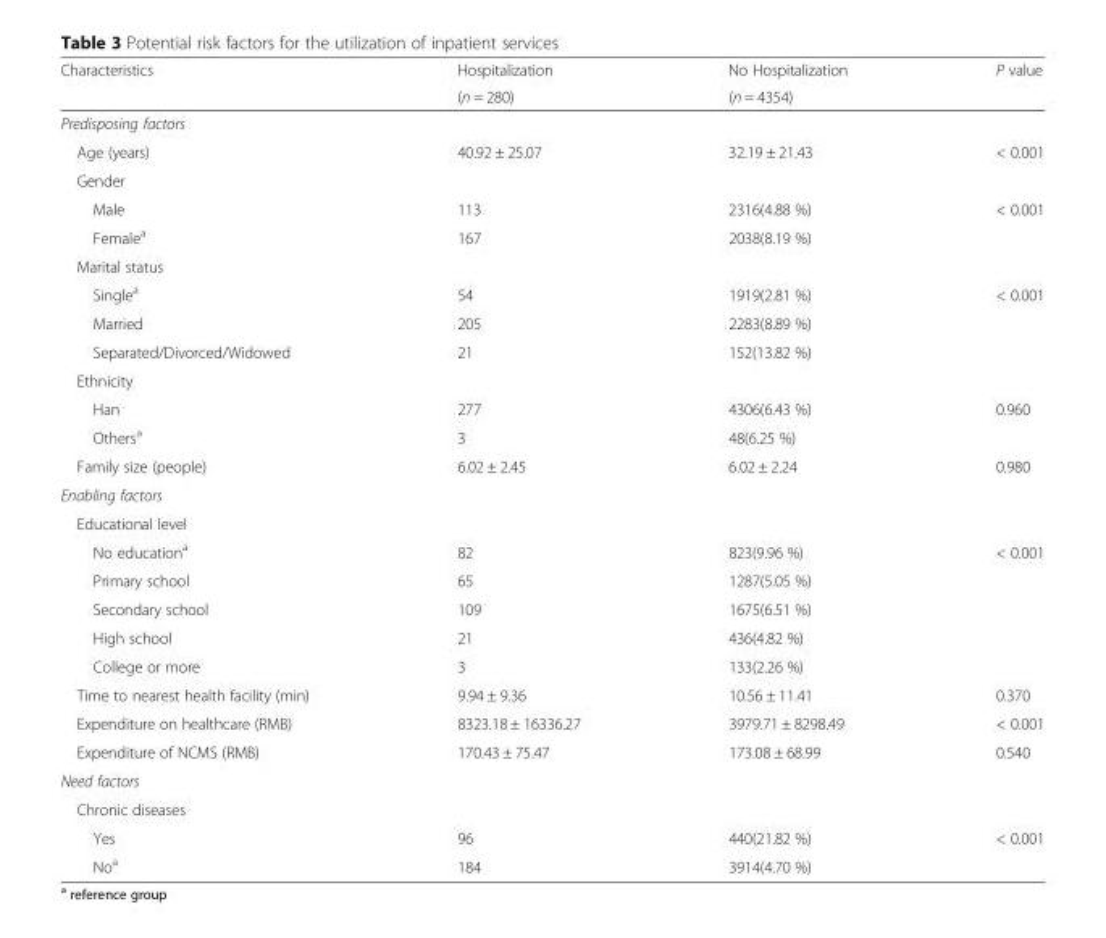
<table><thead><tr><td rowspan="2">Characteristics</td><td rowspan="2">Hospitalization (n = 280)</td><td rowspan="2">No Hospitalization (n = 4354)</td><td rowspan="2">P value</td></tr><tr></tr></thead><tbody><tr><td colspan="4">Predisposing factors</td></tr><tr><td>Age (years)</td><td>40.92 ± 25.07</td><td>32.19 ± 21.43</td><td>&lt; 0.001</td></tr><tr><td colspan="4">Gender</td></tr><tr><td>Male</td><td>113</td><td>2316(4.88 %)</td><td rowspan="2">&lt; 0.001</td></tr><tr><td>Female<sup>a</sup></td><td>167</td><td>2038(8.19 %)</td></tr><tr><td colspan="4">Marital status</td></tr><tr><td>Single<sup>a</sup></td><td>54</td><td>1919(2.81 %)</td><td rowspan="3">&lt; 0.001</td></tr><tr><td>Married</td><td>205</td><td>2283(8.89 %)</td></tr><tr><td>Separated/Divorced/Widowed</td><td>21</td><td>152(13.82 %)</td></tr><tr><td colspan="4">Ethnicity</td></tr><tr><td>Han</td><td>277</td><td>4306(6.43 %)</td><td rowspan="2">0.960</td></tr><tr><td>Others<sup>a</sup></td><td>3</td><td>48(6.25 %)</td></tr><tr><td>Family size (people)</td><td>6.02 ± 2.45</td><td>6.02 ± 2.24</td><td>0.980</td></tr><tr><td colspan="4">Enabling factors</td></tr><tr><td colspan="4">Educational level</td></tr><tr><td>No education<sup>a</sup></td><td>82</td><td>823(9.96 %)</td><td rowspan="5">&lt; 0.001</td></tr><tr><td>Primary school</td><td>65</td><td>1287(5.05 %)</td></tr><tr><td>Secondary school</td><td>109</td><td>1675(6.51 %)</td></tr><tr><td>High school</td><td>21</td><td>436(4.82 %)</td></tr><tr><td>College or more</td><td>3</td><td>133(2.26 %)</td></tr><tr><td>Time to nearest health facility (min)</td><td>9.94 ± 9.36</td><td>10.56 ± 11.41</td><td>0.370</td></tr><tr><td>Expenditure on healthcare (RMB)</td><td>8323.18 ± 16336.27</td><td>3979.71 ± 8298.49</td><td>&lt; 0.001</td></tr><tr><td>Expenditure of NCMS (RMB)</td><td>170.43 ± 75.47</td><td>173.08 ± 68.99</td><td>0.540</td></tr><tr><td colspan="4">Need factors</td></tr><tr><td colspan="4">Chronic diseases</td></tr><tr><td>Yes</td><td>96</td><td>440(21.82 %)</td><td rowspan="2">&lt; 0.001</td></tr><tr><td>No<sup>a</sup></td><td>184</td><td>3914(4.70 %)</td></tr></tbody></table>